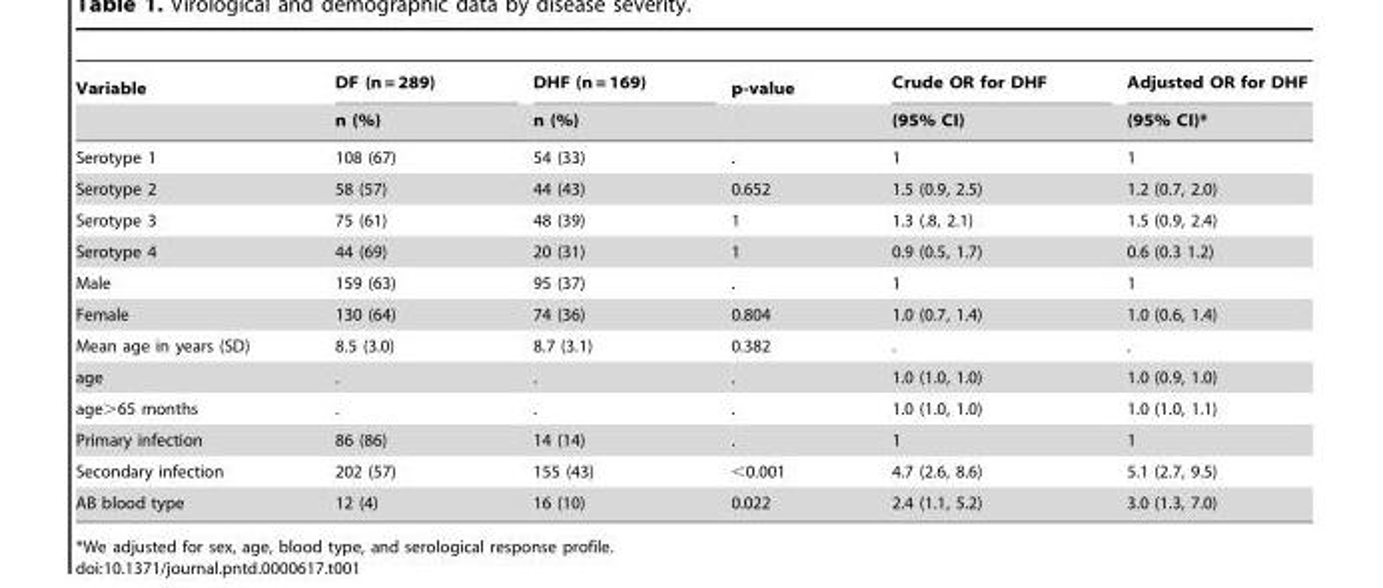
<table><thead><tr><td rowspan="2">Variable</td><td rowspan="2">DF (n = 289) n (%)</td><td rowspan="2">DHF (n = 169) n (%)</td><td rowspan="2">p-value</td><td rowspan="2">Crude OR for DHF (95% CI)</td><td rowspan="2">Adjusted OR for DHF (95% CI)*</td></tr><tr></tr></thead><tbody><tr><td>Serotype 1</td><td>108 (67)</td><td>54 (33)</td><td>.</td><td>1</td><td>1</td></tr><tr><td>Serotype 2</td><td>58 (57)</td><td>44 (43)</td><td>0.652</td><td>1.5 (0.9, 2.5)</td><td>1.2 (0.7, 2.0)</td></tr><tr><td>Serotype 3</td><td>75 (61)</td><td>48 (39)</td><td>1</td><td>1.3 (.8, 2.1)</td><td>1.5 (0.9, 2.4)</td></tr><tr><td>Serotype 4</td><td>44 (69)</td><td>20 (31)</td><td>1</td><td>0.9 (0.5, 1.7)</td><td>0.6 (0.3 1.2)</td></tr><tr><td>Male</td><td>159 (63)</td><td>95 (37)</td><td>.</td><td>1</td><td>1</td></tr><tr><td>Female</td><td>130 (64)</td><td>74 (36)</td><td>0.804</td><td>1.0 (0.7, 1.4)</td><td>1.0 (0.6, 1.4)</td></tr><tr><td>Mean age in years (SD)</td><td>8.5 (3.0)</td><td>8.7 (3.1)</td><td>0.382</td><td>.</td><td>.</td></tr><tr><td>age</td><td>.</td><td>.</td><td>.</td><td>1.0 (1.0, 1.0)</td><td>1.0 (0.9, 1.0)</td></tr><tr><td>age&gt;65 months</td><td>.</td><td>.</td><td>.</td><td>1.0 (1.0, 1.0)</td><td>1.0 (1.0, 1.1)</td></tr><tr><td>Primary infection</td><td>86 (86)</td><td>14 (14)</td><td>.</td><td>1</td><td>1</td></tr><tr><td>Secondary infection</td><td>202 (57)</td><td>155 (43)</td><td>&lt;0.001</td><td>4.7 (2.6, 8.6)</td><td>5.1 (2.7, 9.5)</td></tr><tr><td>AB blood type</td><td>12 (4)</td><td>16 (10)</td><td>0.022</td><td>2.4 (1.1, 5.2)</td><td>3.0 (1.3, 7.0)</td></tr></tbody></table>